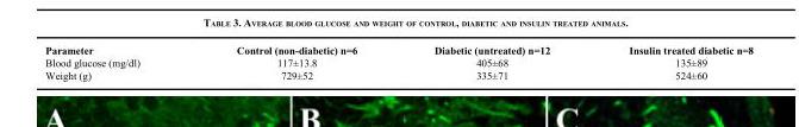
<table><thead><tr><td>Parameter</td><td>Control (non-diabetic) n=6</td><td>Diabetic (untreated) n=12</td><td>Insulin treated diabetic n=8</td></tr></thead><tbody><tr><td>Blood glucose (mg/dl)</td><td>117±13.8</td><td>405±68</td><td>135±89</td></tr><tr><td>Weight (g)</td><td>729±52</td><td>335±71</td><td>524±60</td></tr></tbody></table>